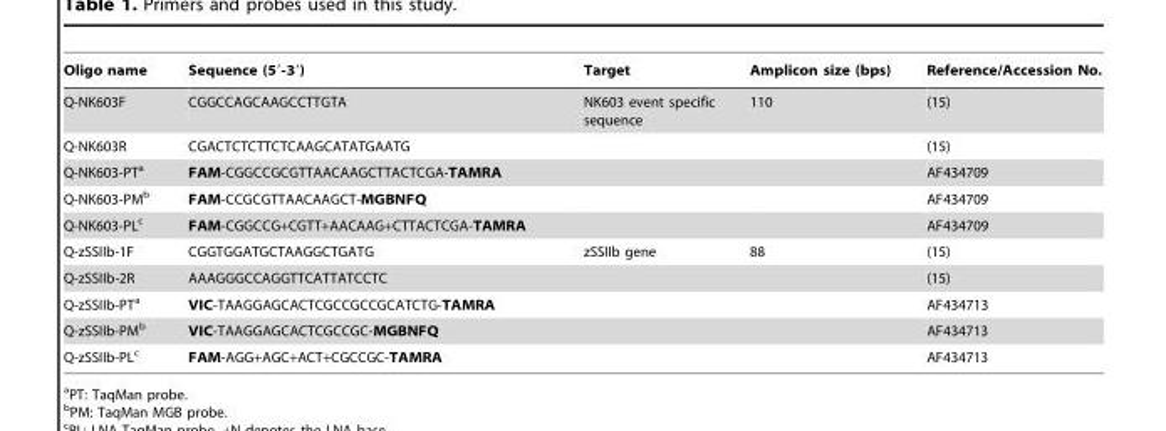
<table><thead><tr><td>Oligo name</td><td>Sequence (5′-3′)</td><td>Target</td><td>Amplicon size (bps)</td><td>Reference/Accession No.</td></tr></thead><tbody><tr><td>Q-NK603F</td><td>CGGCCAGCAAGCCTTGTA</td><td>NK603 event specific sequence</td><td>110</td><td>(15)</td></tr><tr><td>Q-NK603R</td><td>CGACTCTCTTCTCAAGCATATGAATG</td><td></td><td></td><td>(15)</td></tr><tr><td>Q-NK603-PT<sup>a</sup></td><td>FAM-CGGCCGCGTTAACAAGCTTACTCGA-TAMRA</td><td></td><td></td><td>AF434709</td></tr><tr><td>Q-NK603-PM<sup>b</sup></td><td>FAM-CCGCGTTAACAAGCT-MGBNFQ</td><td></td><td></td><td>AF434709</td></tr><tr><td>Q-NK603-PL<sup>c</sup></td><td>FAM-CGGCCG+CGTT+AACAAG+CTTACTCGA-TAMRA</td><td></td><td></td><td>AF434709</td></tr><tr><td>Q-zSSIIb-1F</td><td>CGGTGGATGCTAAGGCTGATG</td><td>zSSIIb gene</td><td>88</td><td>(15)</td></tr><tr><td>Q-zSSIIb-2R</td><td>AAAGGGCCAGGTTCATTATCCTC</td><td></td><td></td><td>(15)</td></tr><tr><td>Q-zSSIIb-PT<sup>a</sup></td><td>VIC-TAAGGAGCACTCGCCGCCGCATCTG-TAMRA</td><td></td><td></td><td>AF434713</td></tr><tr><td>Q-zSSIIb-PM<sup>b</sup></td><td>VIC-TAAGGAGCACTCGCCGC-MGBNFQ</td><td></td><td></td><td>AF434713</td></tr><tr><td>Q-zSSIIb-PL<sup>c</sup></td><td>FAM-AGG+AGC+ACT+CGCCGC-TAMRA</td><td></td><td></td><td>AF434713</td></tr></tbody></table>